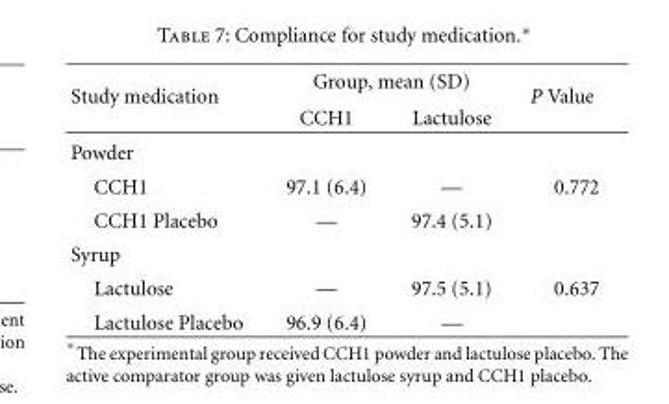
<table><thead><tr><td rowspan="2">Study medication</td><td colspan="2">Group, mean (SD)</td><td rowspan="2">P Value</td></tr><tr><td>CCH1</td><td>Lactulose</td></tr></thead><tbody><tr><td colspan="4">Powder</td></tr><tr><td>CCH1</td><td>97.1 (6.4)</td><td>—</td><td>0.772</td></tr><tr><td>CCH1 Placebo</td><td>—</td><td>97.4 (5.1)</td><td></td></tr><tr><td colspan="4">Syrup</td></tr><tr><td>Lactulose</td><td>—</td><td>97.5 (5.1)</td><td>0.637</td></tr><tr><td>Lactulose Placebo</td><td>96.9 (6.4)</td><td>—</td><td></td></tr></tbody></table>